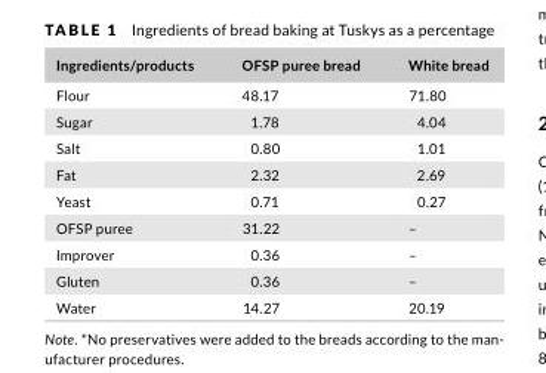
<table><thead><tr><td>Ingredients/products</td><td>OFSP puree bread</td><td>White bread</td></tr></thead><tbody><tr><td>Flour</td><td>48.17</td><td>71.80</td></tr><tr><td>Sugar</td><td>1.78</td><td>4.04</td></tr><tr><td>Salt</td><td>0.80</td><td>1.01</td></tr><tr><td>Fat</td><td>2.32</td><td>2.69</td></tr><tr><td>Yeast</td><td>0.71</td><td>0.27</td></tr><tr><td>OFSP puree</td><td>31.22</td><td>–</td></tr><tr><td>Improver</td><td>0.36</td><td>–</td></tr><tr><td>Gluten</td><td>0.36</td><td>–</td></tr><tr><td>Water</td><td>14.27</td><td>20.19</td></tr></tbody></table>